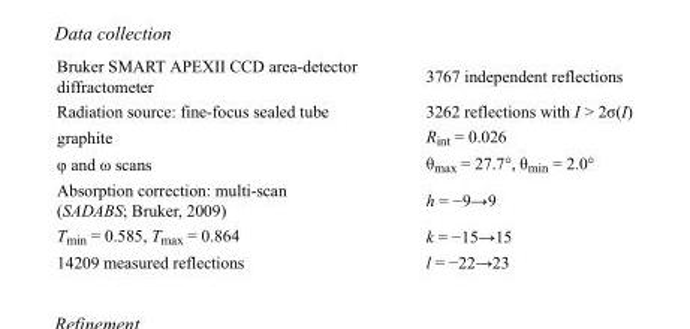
<table><tbody><tr><td>Bruker SMART APEXII CCD area-detector diffractometer</td><td>3767 independent reflections</td></tr><tr><td>Radiation source: fine-focus sealed tube</td><td>3262 reflections with I &gt; 2σ(I)</td></tr><tr><td>graphite</td><td>R<sub>int</sub> = 0.026</td></tr><tr><td>φ and ω scans</td><td>θ<sub>max</sub> = 27.7°, θ<sub>min</sub> = 2.0°</td></tr><tr><td>Absorption correction: multi-scan (SADABS; Bruker, 2009)</td><td>h = −9→9</td></tr><tr><td>T<sub>min</sub> = 0.585, T<sub>max</sub> = 0.864</td><td>k = −15→15</td></tr><tr><td>14209 measured reflections</td><td>l = −22→23</td></tr></tbody></table>